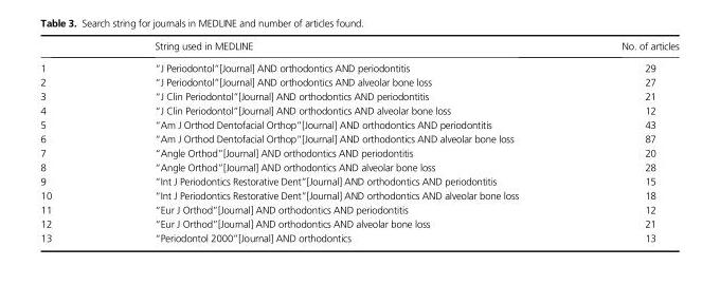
<table><thead><tr><td></td><td>String used in MEDLINE</td><td>No. of articles</td></tr></thead><tbody><tr><td>1</td><td>“J Periodontol”[Journal] AND orthodontics AND periodontitis</td><td>29</td></tr><tr><td>2</td><td>“J Periodontol”[Journal] AND orthodontics AND alveolar bone loss</td><td>27</td></tr><tr><td>3</td><td>“J Clin Periodontol”[Journal] AND orthodontics AND periodontitis</td><td>21</td></tr><tr><td>4</td><td>“J Clin Periodontol”[Journal] AND orthodontics AND alveolar bone loss</td><td>12</td></tr><tr><td>5</td><td>“Am J Orthod Dentofacial Orthop”[Journal] AND orthodontics AND periodontitis</td><td>43</td></tr><tr><td>6</td><td>“Am J Orthod Dentofacial Orthop”[Journal] AND orthodontics AND alveolar bone loss</td><td>87</td></tr><tr><td>7</td><td>“Angle Orthod”[Journal] AND orthodontics AND periodontitis</td><td>20</td></tr><tr><td>8</td><td>“Angle Orthod”[Journal] AND orthodontics AND alveolar bone loss</td><td>28</td></tr><tr><td>9</td><td>“Int J Periodontics Restorative Dent”[Journal] AND orthodontics AND periodontitis</td><td>15</td></tr><tr><td>10</td><td>“Int J Periodontics Restorative Dent”[Journal] AND orthodontics AND alveolar bone loss</td><td>18</td></tr><tr><td>11</td><td>“Eur J Orthod”[Journal] AND orthodontics AND periodontitis</td><td>12</td></tr><tr><td>12</td><td>“Eur J Orthod”[Journal] AND orthodontics AND alveolar bone loss</td><td>21</td></tr><tr><td>13</td><td>“Periodontol 2000”[Journal] AND orthodontics</td><td>13</td></tr></tbody></table>